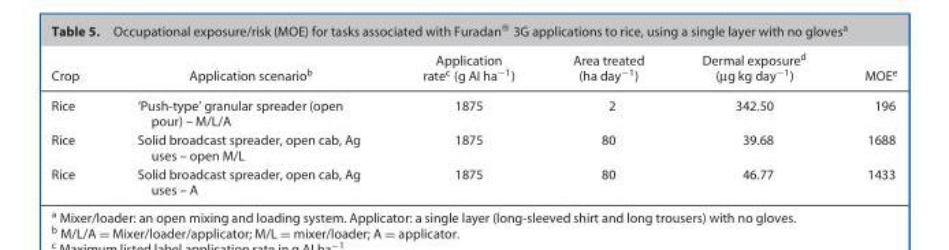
<table><thead><tr><td>Crop</td><td>Application scenario<sup>b</sup></td><td>Application rate<sup>c</sup> (g AI ha<sup>−1</sup>)</td><td>Area treated (ha day<sup>−1</sup>)</td><td>Dermal exposure<sup>d</sup> (µg kg day<sup>−1</sup>)</td><td>MOE<sup>e</sup></td></tr></thead><tbody><tr><td>Rice</td><td>‘Push-type’ granular spreader (open pour) – M/L/A</td><td>1875</td><td>2</td><td>342.50</td><td>196</td></tr><tr><td>Rice</td><td>Solid broadcast spreader, open cab, Ag uses – open M/L</td><td>1875</td><td>80</td><td>39.68</td><td>1688</td></tr><tr><td>Rice</td><td>Solid broadcast spreader, open cab, Ag uses – A</td><td>1875</td><td>80</td><td>46.77</td><td>1433</td></tr></tbody></table>